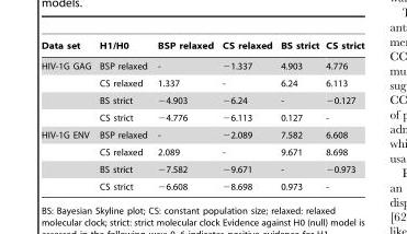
<table><thead><tr><td>Data set</td><td>H1/H0</td><td>BSP relaxed</td><td>CS relaxed</td><td>BS strict</td><td>CS strict</td></tr></thead><tbody><tr><td rowspan="4">HIV-1G GAG</td><td>BSP relaxed</td><td>-</td><td>−1.337</td><td>4.903</td><td>4.776</td></tr><tr><td>CS relaxed</td><td>1.337</td><td>-</td><td>6.24</td><td>6.113</td></tr><tr><td>BS strict</td><td>−4.903</td><td>−6.24</td><td>-</td><td>−0.127</td></tr><tr><td>CS strict</td><td>−4.776</td><td>−6.113</td><td>0.127</td><td>-</td></tr><tr><td rowspan="4">HIV-1G ENV</td><td>BSP relaxed</td><td>-</td><td>−2.089</td><td>7.582</td><td>6.608</td></tr><tr><td>CS relaxed</td><td>2.089</td><td>-</td><td>9.671</td><td>8.698</td></tr><tr><td>BS strict</td><td>−7.582</td><td>−9.671</td><td>-</td><td>−0.973</td></tr><tr><td>CS strict</td><td>−6.608</td><td>−8.698</td><td>0.973</td><td>-</td></tr></tbody></table>